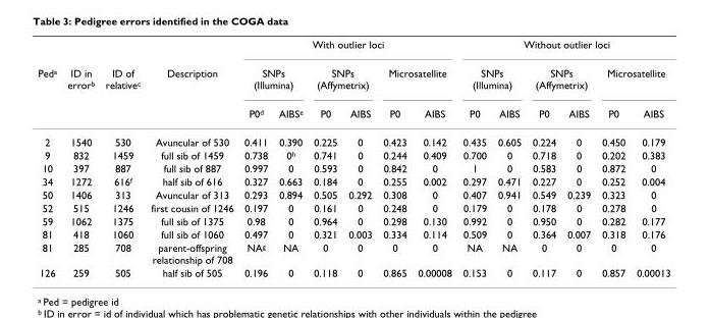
<table><thead><tr><td rowspan="3">Peda</td><td rowspan="3">ID in errorb</td><td rowspan="3">ID of relativec</td><td rowspan="3">Description</td><td colspan="6">With outlier loci</td><td colspan="6">Without outlier loci</td></tr><tr><td colspan="2">SNPs (Illumina)</td><td colspan="2">SNPs (Affymetrix)</td><td colspan="2">Microsatellite</td><td colspan="2">SNPs (Illumina)</td><td colspan="2">SNPs (Affymetrix)</td><td colspan="2">Microsatellite</td></tr><tr><td>P0d</td><td>AIBSe</td><td>P0</td><td>AIBS</td><td>P0</td><td>AIBS</td><td>P0</td><td>AIBS</td><td>P0</td><td>AIBS</td><td>P0</td><td>AIBS</td></tr></thead><tbody><tr><td>2</td><td>1540</td><td>530</td><td>Avuncular of 530</td><td>0.411</td><td>0.390</td><td>0.225</td><td>0</td><td>0.423</td><td>0.142</td><td>0.435</td><td>0.605</td><td>0.224</td><td>0</td><td>0.450</td><td>0.179</td></tr><tr><td>9</td><td>832</td><td>1459</td><td>full sib of 1459</td><td>0.738</td><td>0h</td><td>0.741</td><td>0</td><td>0.244</td><td>0.409</td><td>0.700</td><td>0</td><td>0.718</td><td>0</td><td>0.202</td><td>0.383</td></tr><tr><td>10</td><td>397</td><td>887</td><td>full sib of 887</td><td>0.997</td><td>0</td><td>0.593</td><td>0</td><td>0.842</td><td>0</td><td>1</td><td>0</td><td>0.583</td><td>0</td><td>0.872</td><td>0</td></tr><tr><td>34</td><td>1272</td><td>616f</td><td>half sib of 616</td><td>0.327</td><td>0.663</td><td>0.184</td><td>0</td><td>0.255</td><td>0.002</td><td>0.297</td><td>0.471</td><td>0.227</td><td>0</td><td>0.252</td><td>0.004</td></tr><tr><td>50</td><td>1406</td><td>313</td><td>Avuncular of 313</td><td>0.293</td><td>0.894</td><td>0.505</td><td>0.292</td><td>0.308</td><td>0</td><td>0.407</td><td>0.941</td><td>0.549</td><td>0.239</td><td>0.323</td><td>0</td></tr><tr><td>52</td><td>515</td><td>1246</td><td>first cousin of 1246</td><td>0.197</td><td>0</td><td>0.161</td><td>0</td><td>0.248</td><td>0</td><td>0.179</td><td>0</td><td>0.178</td><td>0</td><td>0.278</td><td>0</td></tr><tr><td>59</td><td>1062</td><td>1375</td><td>full sib of 1375</td><td>0.98</td><td>0</td><td>0.964</td><td>0</td><td>0.298</td><td>0.130</td><td>0.992</td><td>0</td><td>0.950</td><td>0</td><td>0.282</td><td>0.177</td></tr><tr><td>81</td><td>418</td><td>1060</td><td>full sib of 1060</td><td>0.497</td><td>0</td><td>0.321</td><td>0.003</td><td>0.334</td><td>0.114</td><td>0.509</td><td>0</td><td>0.364</td><td>0.007</td><td>0.318</td><td>0.176</td></tr><tr><td>81</td><td>285</td><td>708</td><td>parent-offspring relationship of 708</td><td>NAg</td><td>NA</td><td>0</td><td>0</td><td>0</td><td>0</td><td>NA</td><td>NA</td><td>0</td><td>0</td><td>0</td><td>0</td></tr><tr><td>126</td><td>259</td><td>505</td><td>half sib of 505</td><td>0.196</td><td>0</td><td>0.118</td><td>0</td><td>0.865</td><td>0.00008</td><td>0.153</td><td>0</td><td>0.117</td><td>0</td><td>0.857</td><td>0.00013</td></tr></tbody></table>